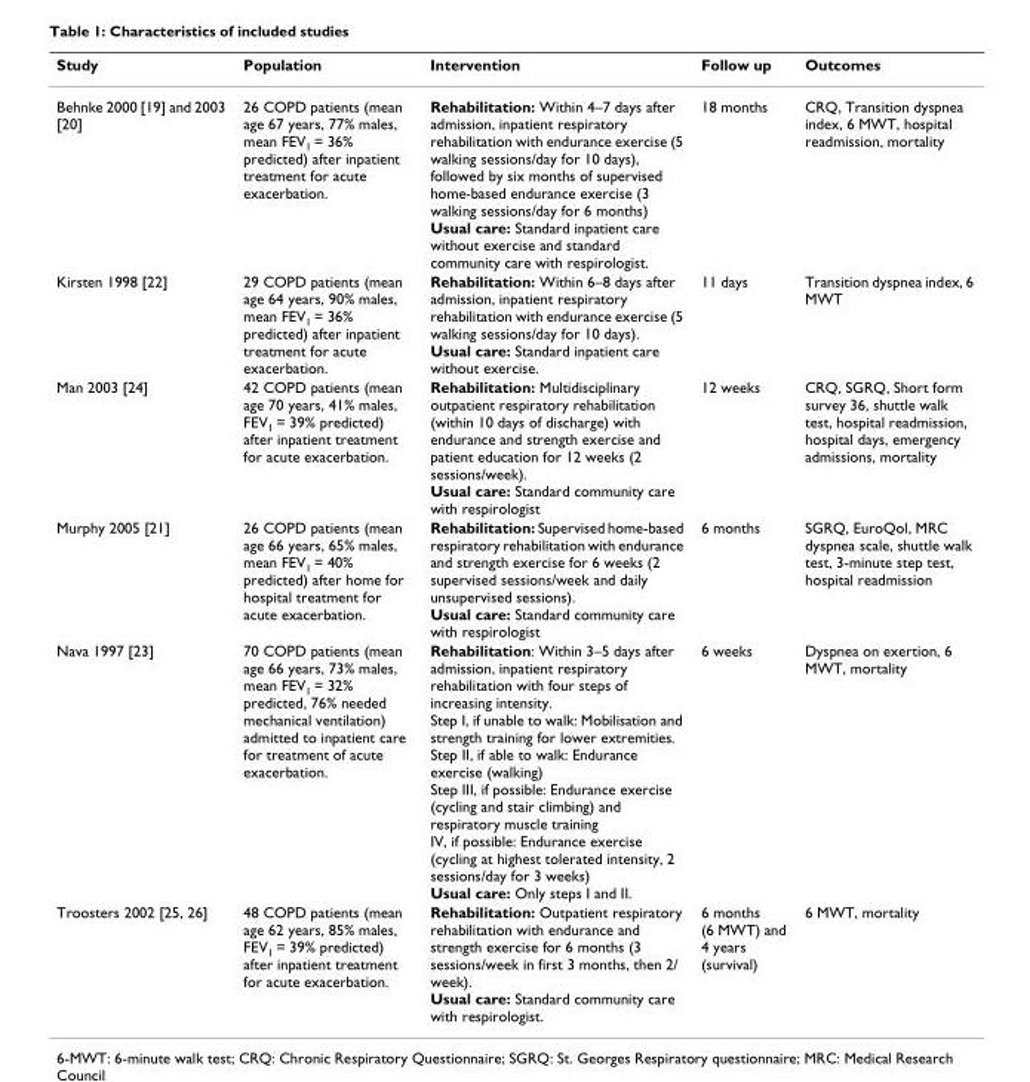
<table><thead><tr><td>Study</td><td>Population</td><td>Intervention</td><td>Follow up</td><td>Outcomes</td></tr></thead><tbody><tr><td>Behnke 2000 [19] and 2003 [20]</td><td>26 COPD patients (mean age 67 years, 77% males, mean FEV<sub>1</sub> = 36% predicted) after inpatient treatment for acute exacerbation.</td><td>Rehabilitation: Within 4–7 days after admission, inpatient respiratory rehabilitation with endurance exercise (5 walking sessions/day for 10 days), followed by six months of supervised home-based endurance exercise (3 walking sessions/day for 6 months) Usual care: Standard inpatient care without exercise and standard community care with respirologist.</td><td>18 months</td><td>CRQ, Transition dyspnea index, 6 MWT, hospital readmission, mortality</td></tr><tr><td>Kirsten 1998 [22]</td><td>29 COPD patients (mean age 64 years, 90% males, mean FEV<sub>1</sub> = 36% predicted) after inpatient treatment for acute exacerbation.</td><td>Rehabilitation: Within 6–8 days after admission, inpatient respiratory rehabilitation with endurance exercise (5 walking sessions/day for 10 days). Usual care: Standard inpatient care without exercise.</td><td>11 days</td><td>Transition dyspnea index, 6 MWT</td></tr><tr><td>Man 2003 [24]</td><td>42 COPD patients (mean age 70 years, 41% males, FEV<sub>1</sub> = 39% predicted) after inpatient treatment for acute exacerbation.</td><td>Rehabilitation: Multidisciplinary outpatient respiratory rehabilitation (within 10 days of discharge) with endurance and strength exercise and patient education for 12 weeks (2 sessions/week). Usual care: Standard community care with respirologist</td><td>12 weeks</td><td>CRQ, SGRQ, Short form survey 36, shuttle walk test, hospital readmission, hospital days, emergency admissions, mortality</td></tr><tr><td>Murphy 2005 [21]</td><td>26 COPD patients (mean age 66 years, 65% males, mean FEV<sub>1</sub> = 40% predicted) after home for hospital treatment for acute exacerbation.</td><td>Rehabilitation: Supervised home-based respiratory rehabilitation with endurance and strength exercise for 6 weeks (2 supervised sessions/week and daily unsupervised sessions). Usual care: Standard community care with respirologist</td><td>6 months</td><td>SGRQ, EuroQol, MRC dyspnea scale, shuttle walk test, 3-minute step test, hospital readmission</td></tr><tr><td>Nava 1997 [23]</td><td>70 COPD patients (mean age 66 years, 73% males, mean FEV<sub>1</sub> = 32% predicted, 76% needed mechanical ventilation) admitted to inpatient care for treatment of acute exacerbation.</td><td>Rehabilitation: Within 3–5 days after admission, inpatient respiratory rehabilitation with four steps of increasing intensity. Step I, if unable to walk: Mobilisation and strength training for lower extremities. Step II, if able to walk: Endurance exercise (walking) Step III, if possible: Endurance exercise (cycling and stair climbing) and respiratory muscle training IV, if possible: Endurance exercise (cycling at highest tolerated intensity, 2 sessions/day for 3 weeks) Usual care: Only steps I and II.</td><td>6 weeks</td><td>Dyspnea on exertion, 6 MWT, mortality</td></tr><tr><td>Troosters 2002 [25, 26]</td><td>48 COPD patients (mean age 62 years, 85% males, FEV<sub>1</sub> = 39% predicted) after inpatient treatment for acute exacerbation.</td><td>Rehabilitation: Outpatient respiratory rehabilitation with endurance and strength exercise for 6 months (3 sessions/week in first 3 months, then 2/ week). Usual care: Standard community care with respirologist.</td><td>6 months (6 MWT) and 4 years (survival)</td><td>6 MWT, mortality</td></tr></tbody></table>